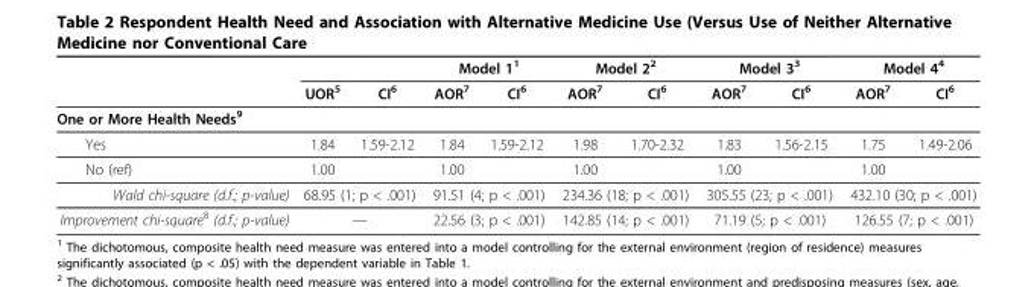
<table><thead><tr><td rowspan="2"></td><td rowspan="2">UOR<sup>5</sup></td><td rowspan="2">CI<sup>6</sup></td><td colspan="2">Model 1<sup>1</sup></td><td colspan="2">Model 2<sup>2</sup></td><td colspan="2">Model 3<sup>3</sup></td><td colspan="2">Model 4<sup>4</sup></td></tr><tr><td>AOR<sup>7</sup></td><td>CI<sup>6</sup></td><td>AOR<sup>7</sup></td><td>CI<sup>6</sup></td><td>AOR<sup>7</sup></td><td>CI<sup>6</sup></td><td>AOR<sup>7</sup></td><td>CI<sup>6</sup></td></tr></thead><tbody><tr><td colspan="11">One or More Health Needs<sup>9</sup></td></tr><tr><td>Yes</td><td>1.84</td><td>1.59-2.12</td><td>1.84</td><td>1.59-2.12</td><td>1.98</td><td>1.70-2.32</td><td>1.83</td><td>1.56-2.15</td><td>1.75</td><td>1.49-2.06</td></tr><tr><td>No (ref)</td><td>1.00</td><td></td><td>1.00</td><td></td><td>1.00</td><td></td><td>1.00</td><td></td><td>1.00</td><td></td></tr><tr><td>Wald chi-square (d.f.; p-value)</td><td colspan="2">68.95 (1; p &lt; .001)</td><td colspan="2">91.51 (4; p &lt; .001)</td><td colspan="2">234.36 (18; p &lt; .001)</td><td colspan="2">305.55 (23; p &lt; .001)</td><td colspan="2">432.10 (30; p &lt; .001)</td></tr><tr><td>Improvement chi-square<sup>8</sup> (d.f.; p-value)</td><td colspan="2">—</td><td colspan="2">22.56 (3; p &lt; .001)</td><td colspan="2">142.85 (14; p &lt; .001)</td><td colspan="2">71.19 (5; p &lt; .001)</td><td colspan="2">126.55 (7; p &lt; .001)</td></tr></tbody></table>